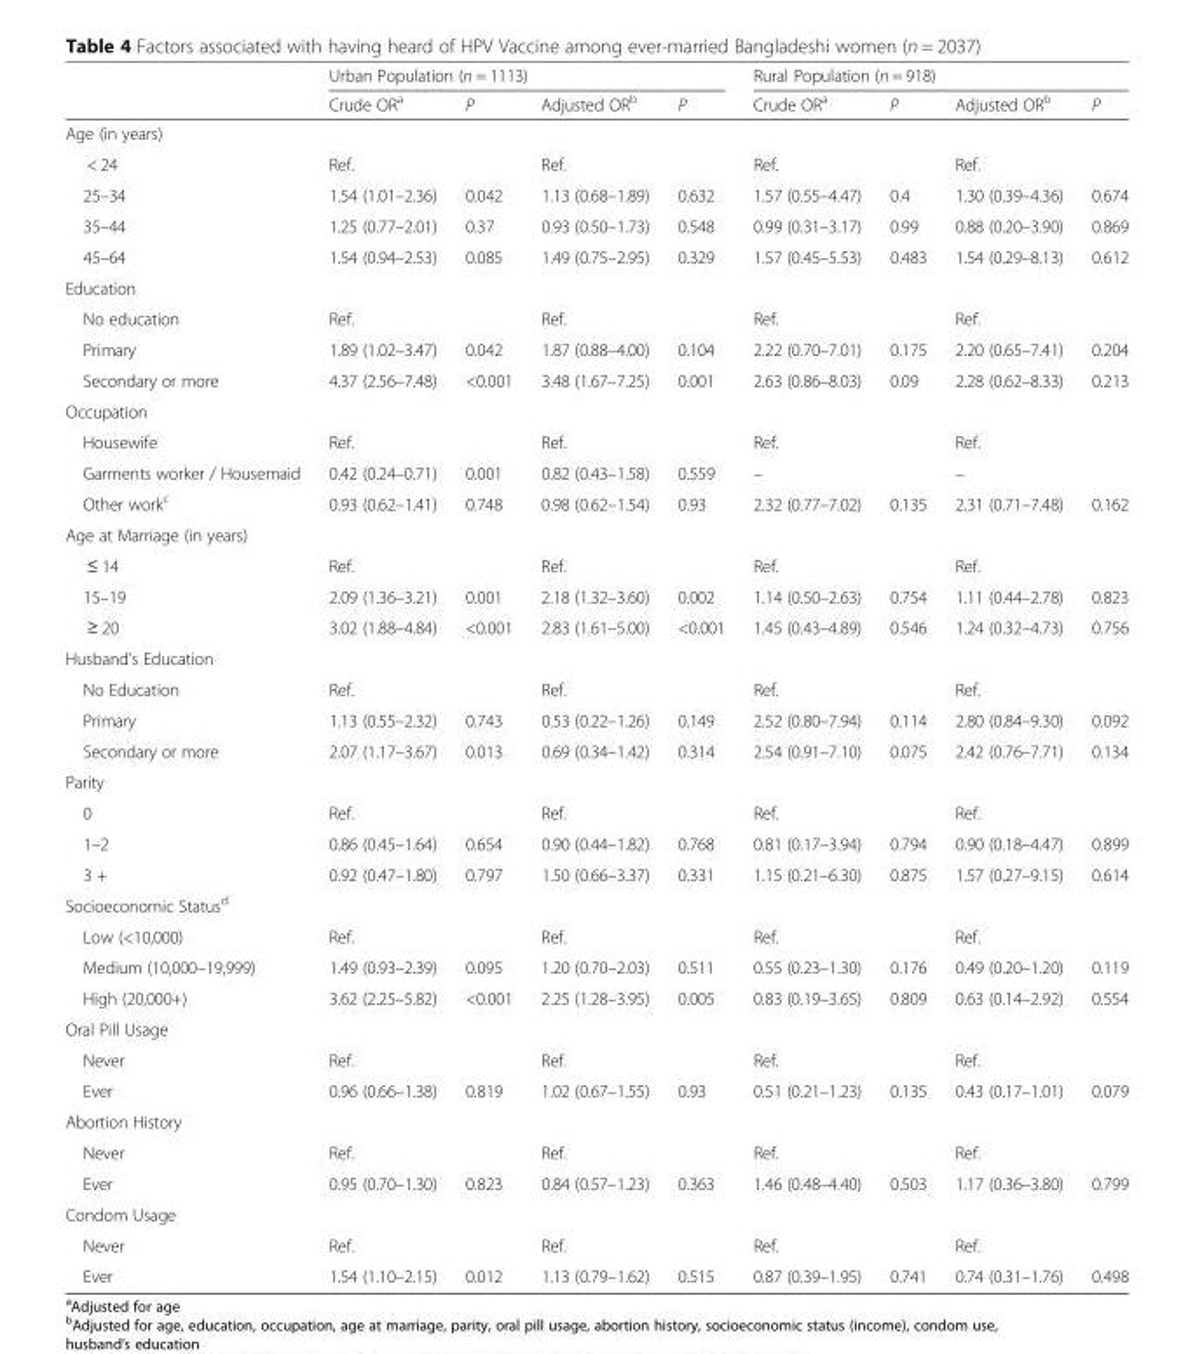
<table><thead><tr><td rowspan="2"></td><td colspan="4">Urban Population (n = 1113)</td><td colspan="4">Rural Population (n = 918)</td></tr><tr><td>Crude OR<sup>a</sup></td><td>P</td><td>Adjusted OR<sup>b</sup></td><td>P</td><td>Crude OR<sup>a</sup></td><td>P</td><td>Adjusted OR<sup>b</sup></td><td>P</td></tr></thead><tbody><tr><td colspan="9">Age (in years)</td></tr><tr><td>&lt; 24</td><td>Ref.</td><td></td><td>Ref.</td><td></td><td>Ref.</td><td></td><td>Ref.</td><td></td></tr><tr><td>25–34</td><td>1.54 (1.01–2.36)</td><td>0.042</td><td>1.13 (0.68–1.89)</td><td>0.632</td><td>1.57 (0.55–4.47)</td><td>0.4</td><td>1.30 (0.39–4.36)</td><td>0.674</td></tr><tr><td>35–44</td><td>1.25 (0.77–2.01)</td><td>0.37</td><td>0.93 (0.50–1.73)</td><td>0.548</td><td>0.99 (0.31–3.17)</td><td>0.99</td><td>0.88 (0.20–3.90)</td><td>0.869</td></tr><tr><td>45–64</td><td>1.54 (0.94–2.53)</td><td>0.085</td><td>1.49 (0.75–2.95)</td><td>0.329</td><td>1.57 (0.45–5.53)</td><td>0.483</td><td>1.54 (0.29–8.13)</td><td>0.612</td></tr><tr><td colspan="9">Education</td></tr><tr><td>No education</td><td>Ref.</td><td></td><td>Ref.</td><td></td><td>Ref.</td><td></td><td>Ref.</td><td></td></tr><tr><td>Primary</td><td>1.89 (1.02–3.47)</td><td>0.042</td><td>1.87 (0.88–4.00)</td><td>0.104</td><td>2.22 (0.70–7.01)</td><td>0.175</td><td>2.20 (0.65–7.41)</td><td>0.204</td></tr><tr><td>Secondary or more</td><td>4.37 (2.56–7.48)</td><td>&lt;0.001</td><td>3.48 (1.67–7.25)</td><td>0.001</td><td>2.63 (0.86–8.03)</td><td>0.09</td><td>2.28 (0.62–8.33)</td><td>0.213</td></tr><tr><td colspan="9">Occupation</td></tr><tr><td>Housewife</td><td>Ref.</td><td></td><td>Ref.</td><td></td><td>Ref.</td><td></td><td>Ref.</td><td></td></tr><tr><td>Garments worker / Housemaid</td><td>0.42 (0.24–0.71)</td><td>0.001</td><td>0.82 (0.43–1.58)</td><td>0.559</td><td>–</td><td></td><td>–</td><td></td></tr><tr><td>Other work<sup>c</sup></td><td>0.93 (0.62–1.41)</td><td>0.748</td><td>0.98 (0.62–1.54)</td><td>0.93</td><td>2.32 (0.77–7.02)</td><td>0.135</td><td>2.31 (0.71–7.48)</td><td>0.162</td></tr><tr><td colspan="9">Age at Marriage (in years)</td></tr><tr><td>≤ 14</td><td>Ref.</td><td></td><td>Ref.</td><td></td><td>Ref.</td><td></td><td>Ref.</td><td></td></tr><tr><td>15–19</td><td>2.09 (1.36–3.21)</td><td>0.001</td><td>2.18 (1.32–3.60)</td><td>0.002</td><td>1.14 (0.50–2.63)</td><td>0.754</td><td>1.11 (0.44–2.78)</td><td>0.823</td></tr><tr><td>≥ 20</td><td>3.02 (1.88–4.84)</td><td>&lt;0.001</td><td>2.83 (1.61–5.00)</td><td>&lt;0.001</td><td>1.45 (0.43–4.89)</td><td>0.546</td><td>1.24 (0.32–4.73)</td><td>0.756</td></tr><tr><td colspan="9">Husband’s Education</td></tr><tr><td>No Education</td><td>Ref.</td><td></td><td>Ref.</td><td></td><td>Ref.</td><td></td><td>Ref.</td><td></td></tr><tr><td>Primary</td><td>1.13 (0.55–2.32)</td><td>0.743</td><td>0.53 (0.22–1.26)</td><td>0.149</td><td>2.52 (0.80–7.94)</td><td>0.114</td><td>2.80 (0.84–9.30)</td><td>0.092</td></tr><tr><td>Secondary or more</td><td>2.07 (1.17–3.67)</td><td>0.013</td><td>0.69 (0.34–1.42)</td><td>0.314</td><td>2.54 (0.91–7.10)</td><td>0.075</td><td>2.42 (0.76–7.71)</td><td>0.134</td></tr><tr><td colspan="9">Parity</td></tr><tr><td>0</td><td>Ref.</td><td></td><td>Ref.</td><td></td><td>Ref.</td><td></td><td>Ref.</td><td></td></tr><tr><td>1–2</td><td>0.86 (0.45–1.64)</td><td>0.654</td><td>0.90 (0.44–1.82)</td><td>0.768</td><td>0.81 (0.17–3.94)</td><td>0.794</td><td>0.90 (0.18–4.47)</td><td>0.899</td></tr><tr><td>3 +</td><td>0.92 (0.47–1.80)</td><td>0.797</td><td>1.50 (0.66–3.37)</td><td>0.331</td><td>1.15 (0.21–6.30)</td><td>0.875</td><td>1.57 (0.27–9.15)</td><td>0.614</td></tr><tr><td colspan="9">Socioeconomic Status<sup>d</sup></td></tr><tr><td>Low (&lt;10,000)</td><td>Ref.</td><td></td><td>Ref.</td><td></td><td>Ref.</td><td></td><td>Ref.</td><td></td></tr><tr><td>Medium (10,000–19,999)</td><td>1.49 (0.93–2.39)</td><td>0.095</td><td>1.20 (0.70–2.03)</td><td>0.511</td><td>0.55 (0.23–1.30)</td><td>0.176</td><td>0.49 (0.20–1.20)</td><td>0.119</td></tr><tr><td>High (20,000+)</td><td>3.62 (2.25–5.82)</td><td>&lt;0.001</td><td>2.25 (1.28–3.95)</td><td>0.005</td><td>0.83 (0.19–3.65)</td><td>0.809</td><td>0.63 (0.14–2.92)</td><td>0.554</td></tr><tr><td colspan="9">Oral Pill Usage</td></tr><tr><td>Never</td><td>Ref.</td><td></td><td>Ref.</td><td></td><td>Ref.</td><td></td><td>Ref.</td><td></td></tr><tr><td>Ever</td><td>0.96 (0.66–1.38)</td><td>0.819</td><td>1.02 (0.67–1.55)</td><td>0.93</td><td>0.51 (0.21–1.23)</td><td>0.135</td><td>0.43 (0.17–1.01)</td><td>0.079</td></tr><tr><td colspan="9">Abortion History</td></tr><tr><td>Never</td><td>Ref.</td><td></td><td>Ref.</td><td></td><td>Ref.</td><td></td><td>Ref.</td><td></td></tr><tr><td>Ever</td><td>0.95 (0.70–1.30)</td><td>0.823</td><td>0.84 (0.57–1.23)</td><td>0.363</td><td>1.46 (0.48–4.40)</td><td>0.503</td><td>1.17 (0.36–3.80)</td><td>0.799</td></tr><tr><td colspan="9">Condom Usage</td></tr><tr><td>Never</td><td>Ref.</td><td></td><td>Ref.</td><td></td><td>Ref.</td><td></td><td>Ref.</td><td></td></tr><tr><td>Ever</td><td>1.54 (1.10–2.15)</td><td>0.012</td><td>1.13 (0.79–1.62)</td><td>0.515</td><td>0.87 (0.39–1.95)</td><td>0.741</td><td>0.74 (0.31–1.76)</td><td>0.498</td></tr></tbody></table>